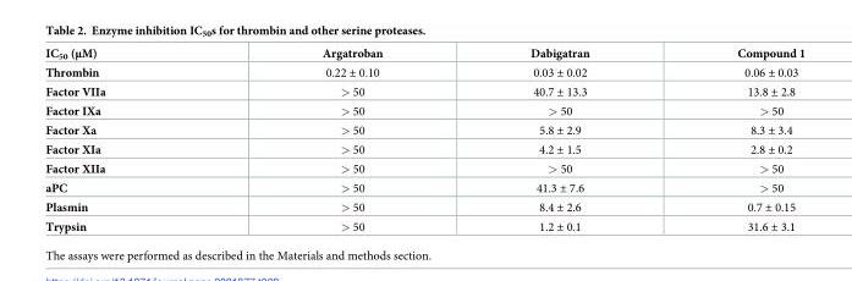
<table><thead><tr><td>IC<sub>50</sub> (μM)</td><td>Argatroban</td><td>Dabigatran</td><td>Compound 1</td></tr></thead><tbody><tr><td>Thrombin</td><td>0.22 ± 0.10</td><td>0.03 ± 0.02</td><td>0.06 ± 0.03</td></tr><tr><td>Factor VIIa</td><td>&gt; 50</td><td>40.7 ± 13.3</td><td>13.8 ± 2.8</td></tr><tr><td>Factor IXa</td><td>&gt; 50</td><td>&gt; 50</td><td>&gt; 50</td></tr><tr><td>Factor Xa</td><td>&gt; 50</td><td>5.8 ± 2.9</td><td>8.3 ± 3.4</td></tr><tr><td>Factor XIa</td><td>&gt; 50</td><td>4.2 ± 1.5</td><td>2.8 ± 0.2</td></tr><tr><td>Factor XIIa</td><td>&gt; 50</td><td>&gt; 50</td><td>&gt; 50</td></tr><tr><td>aPC</td><td>&gt; 50</td><td>41.3 ± 7.6</td><td>&gt; 50</td></tr><tr><td>Plasmin</td><td>&gt; 50</td><td>8.4 ± 2.6</td><td>0.7 ± 0.15</td></tr><tr><td>Trypsin</td><td>&gt; 50</td><td>1.2 ± 0.1</td><td>31.6 ± 3.1</td></tr></tbody></table>